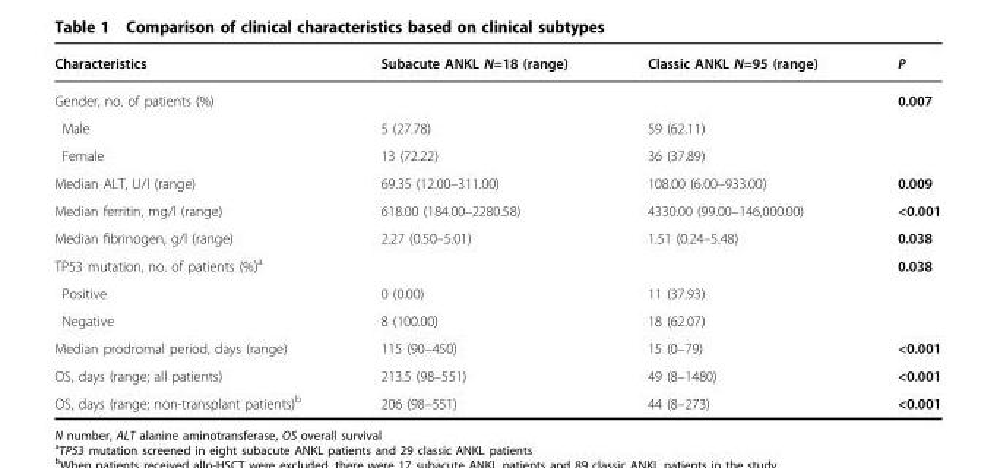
<table><thead><tr><td>Characteristics</td><td>Subacute ANKL N=18 (range)</td><td>Classic ANKL N=95 (range)</td><td>P</td></tr></thead><tbody><tr><td>Gender, no. of patients (%)</td><td></td><td></td><td>0.007</td></tr><tr><td>Male</td><td>5 (27.78)</td><td>59 (62.11)</td><td></td></tr><tr><td>Female</td><td>13 (72.22)</td><td>36 (37.89)</td><td></td></tr><tr><td>Median ALT, U/l (range)</td><td>69.35 (12.00–311.00)</td><td>108.00 (6.00–933.00)</td><td>0.009</td></tr><tr><td>Median ferritin, mg/l (range)</td><td>618.00 (184.00–2280.58)</td><td>4330.00 (99.00–146,000.00)</td><td>&lt;0.001</td></tr><tr><td>Median fibrinogen, g/l (range)</td><td>2.27 (0.50–5.01)</td><td>1.51 (0.24–5.48)</td><td>0.038</td></tr><tr><td>TP53 mutation, no. of patients (%)<sup>a</sup></td><td></td><td></td><td>0.038</td></tr><tr><td>Positive</td><td>0 (0.00)</td><td>11 (37.93)</td><td></td></tr><tr><td>Negative</td><td>8 (100.00)</td><td>18 (62.07)</td><td></td></tr><tr><td>Median prodromal period, days (range)</td><td>115 (90–450)</td><td>15 (0–79)</td><td>&lt;0.001</td></tr><tr><td>OS, days (range; all patients)</td><td>213.5 (98–551)</td><td>49 (8–1480)</td><td>&lt;0.001</td></tr><tr><td>OS, days (range; non-transplant patients)<sup>b</sup></td><td>206 (98–551)</td><td>44 (8–273)</td><td>&lt;0.001</td></tr></tbody></table>